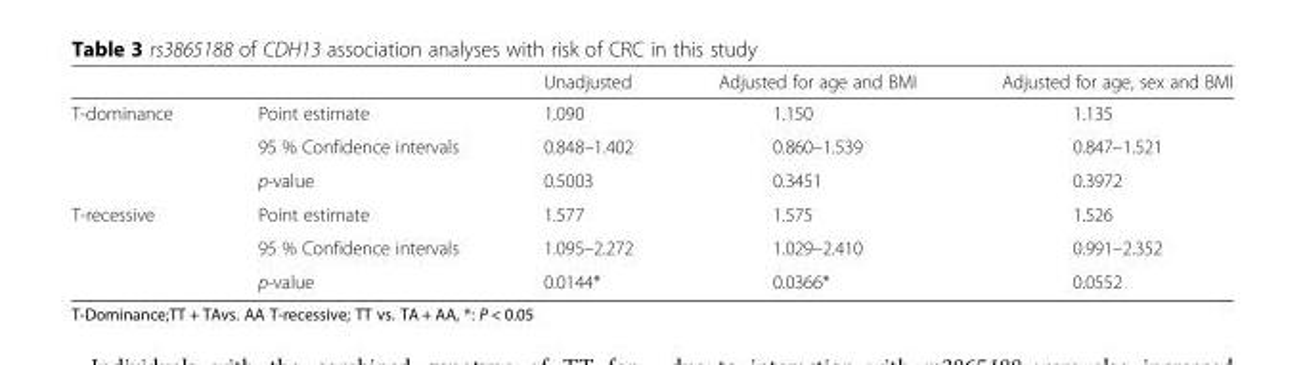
<table><thead><tr><td></td><td></td><td>Unadjusted</td><td>Adjusted for age and BMI</td><td>Adjusted for age, sex and BMI</td></tr></thead><tbody><tr><td rowspan="3">T-dominance</td><td>Point estimate</td><td>1.090</td><td>1.150</td><td>1.135</td></tr><tr><td>95 % Confidence intervals</td><td>0.848–1.402</td><td>0.860–1.539</td><td>0.847–1.521</td></tr><tr><td>p-value</td><td>0.5003</td><td>0.3451</td><td>0.3972</td></tr><tr><td rowspan="3">T-recessive</td><td>Point estimate</td><td>1.577</td><td>1.575</td><td>1.526</td></tr><tr><td>95 % Confidence intervals</td><td>1.095–2.272</td><td>1.029–2.410</td><td>0.991–2.352</td></tr><tr><td>p-value</td><td>0.0144*</td><td>0.0366*</td><td>0.0552</td></tr></tbody></table>